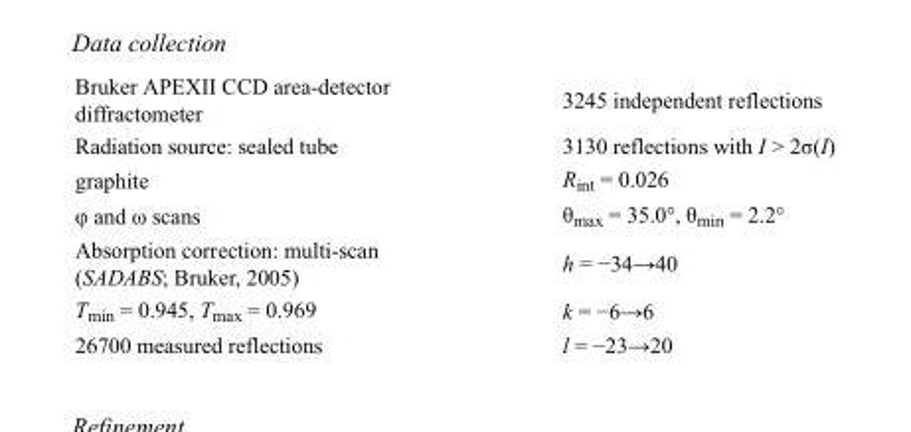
<table><tbody><tr><td>Bruker APEXII CCD area-detector diffractometer</td><td>3245 independent reflections</td></tr><tr><td>Radiation source: sealed tube</td><td>3130 reflections with I &gt; 2σ(I)</td></tr><tr><td>graphite</td><td>R<sub>int</sub> = 0.026</td></tr><tr><td>φ and ω scans</td><td>θ<sub>max</sub> = 35.0°, θ<sub>min</sub> = 2.2°</td></tr><tr><td>Absorption correction: multi-scan (SADABS; Bruker, 2005)</td><td>h = −34→40</td></tr><tr><td>T<sub>min</sub> = 0.945, T<sub>max</sub> = 0.969</td><td>k = −6→6</td></tr><tr><td>26700 measured reflections</td><td>l = −23→20</td></tr></tbody></table>